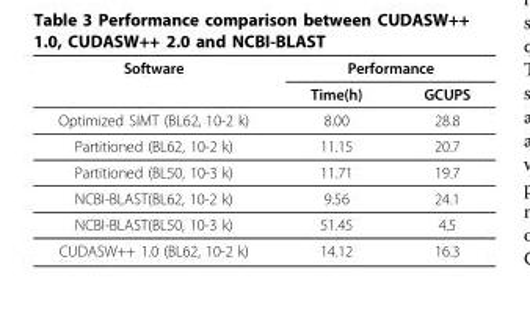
<table><thead><tr><td rowspan="2">Software</td><td colspan="2">Performance</td></tr><tr><td>Time(h)</td><td>GCUPS</td></tr></thead><tbody><tr><td>Optimized SIMT (BL62, 10-2 k)</td><td>8.00</td><td>28.8</td></tr><tr><td>Partitioned (BL62, 10-2 k)</td><td>11.15</td><td>20.7</td></tr><tr><td>Partitioned (BL50, 10-3 k)</td><td>11.71</td><td>19.7</td></tr><tr><td>NCBI-BLAST(BL62, 10-2 k)</td><td>9.56</td><td>24.1</td></tr><tr><td>NCBI-BLAST(BL50, 10-3 k)</td><td>51.45</td><td>4.5</td></tr><tr><td>CUDASW++ 1.0 (BL62, 10-2 k)</td><td>14.12</td><td>16.3</td></tr></tbody></table>